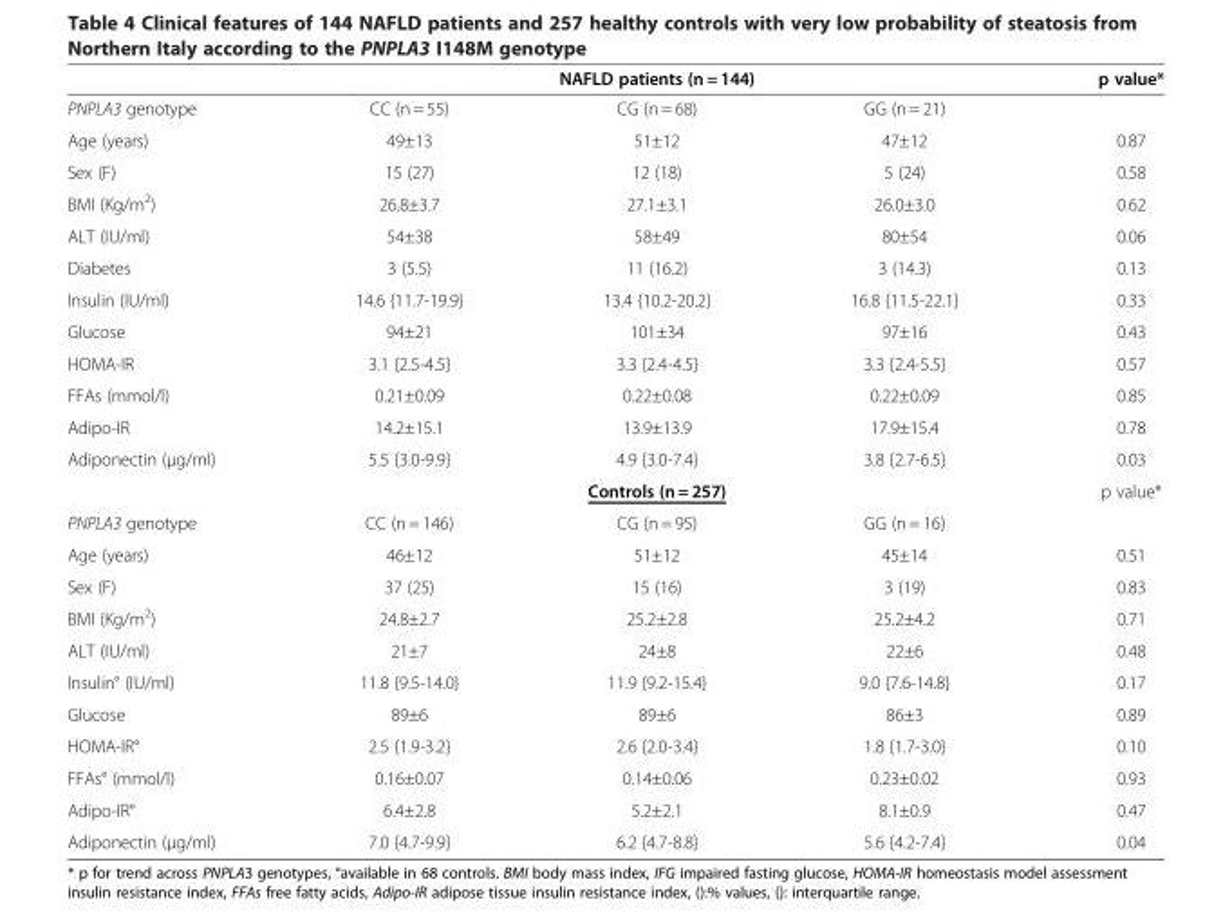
<table><thead><tr><td rowspan="2">PNPLA3 genotype</td><td colspan="3">NAFLD patients (n = 144)</td><td rowspan="2">p value*</td></tr><tr><td>CC (n = 55)</td><td>CG (n = 68)</td><td>GG (n = 21)</td></tr></thead><tbody><tr><td>Age (years)</td><td>49±13</td><td>51±12</td><td>47±12</td><td>0.87</td></tr><tr><td>Sex (F)</td><td>15 (27)</td><td>12 (18)</td><td>5 (24)</td><td>0.58</td></tr><tr><td>BMI (Kg/m<sup>2</sup>)</td><td>26.8±3.7</td><td>27.1±3.1</td><td>26.0±3.0</td><td>0.62</td></tr><tr><td>ALT (IU/ml)</td><td>54±38</td><td>58±49</td><td>80±54</td><td>0.06</td></tr><tr><td>Diabetes</td><td>3 (5.5)</td><td>11 (16.2)</td><td>3 (14.3)</td><td>0.13</td></tr><tr><td>Insulin (IU/ml)</td><td>14.6 {11.7-19.9}</td><td>13.4 {10.2-20.2}</td><td>16.8 {11.5-22.1}</td><td>0.33</td></tr><tr><td>Glucose</td><td>94±21</td><td>101±34</td><td>97±16</td><td>0.43</td></tr><tr><td>HOMA-IR</td><td>3.1 {2.5-4.5}</td><td>3.3 {2.4-4.5}</td><td>3.3 {2.4-5.5}</td><td>0.57</td></tr><tr><td>FFAs (mmol/l)</td><td>0.21±0.09</td><td>0.22±0.08</td><td>0.22±0.09</td><td>0.85</td></tr><tr><td>Adipo-IR</td><td>14.2±15.1</td><td>13.9±13.9</td><td>17.9±15.4</td><td>0.78</td></tr><tr><td rowspan="2">Adiponectin (μg/ml)</td><td>5.5 {3.0-9.9}</td><td>4.9 {3.0-7.4}</td><td>3.8 {2.7-6.5}</td><td>0.03</td></tr><tr><td colspan="3">Controls (n = 257)</td><td>p value*</td></tr><tr><td>PNPLA3 genotype</td><td>CC (n = 146)</td><td>CG (n = 95)</td><td>GG (n = 16)</td><td></td></tr><tr><td>Age (years)</td><td>46±12</td><td>51±12</td><td>45±14</td><td>0.51</td></tr><tr><td>Sex (F)</td><td>37 (25)</td><td>15 (16)</td><td>3 (19)</td><td>0.83</td></tr><tr><td>BMI (Kg/m<sup>2</sup>)</td><td>24.8±2.7</td><td>25.2±2.8</td><td>25.2±4.2</td><td>0.71</td></tr><tr><td>ALT (IU/ml)</td><td>21±7</td><td>24±8</td><td>22±6</td><td>0.48</td></tr><tr><td>Insulin° (IU/ml)</td><td>11.8 {9.5-14.0}</td><td>11.9 {9.2-15.4}</td><td>9.0 {7.6-14.8}</td><td>0.17</td></tr><tr><td>Glucose</td><td>89±6</td><td>89±6</td><td>86±3</td><td>0.89</td></tr><tr><td>HOMA-IR°</td><td>2.5 {1.9-3.2}</td><td>2.6 {2.0-3.4}</td><td>1.8 {1.7-3.0}</td><td>0.10</td></tr><tr><td>FFAs° (mmol/l)</td><td>0.16±0.07</td><td>0.14±0.06</td><td>0.23±0.02</td><td>0.93</td></tr><tr><td>Adipo-IR°</td><td>6.4±2.8</td><td>5.2±2.1</td><td>8.1±0.9</td><td>0.47</td></tr><tr><td>Adiponectin (μg/ml)</td><td>7.0 {4.7-9.9}</td><td>6.2 {4.7-8.8}</td><td>5.6 {4.2-7.4}</td><td>0.04</td></tr></tbody></table>